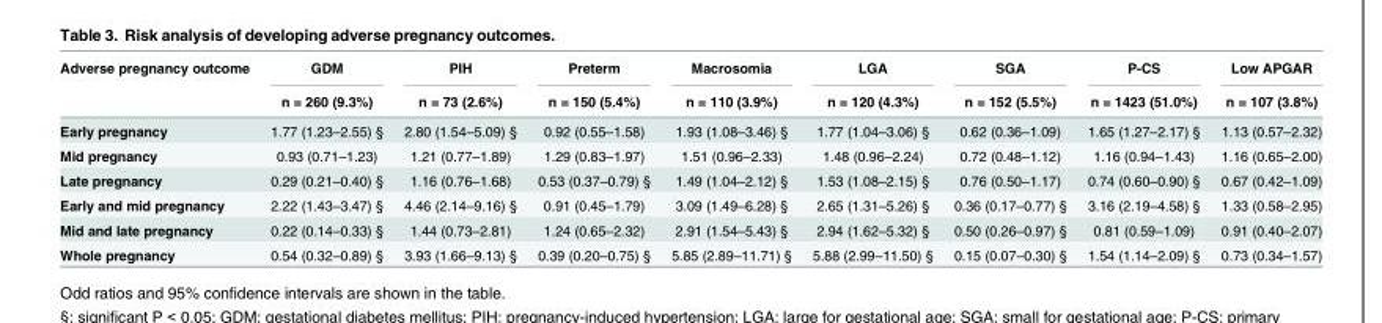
<table><thead><tr><td rowspan="2">Adverse pregnancy outcome</td><td rowspan="2">GDM n = 260 (9.3%)</td><td rowspan="2">PIH n = 73 (2.6%)</td><td rowspan="2">Preterm n = 150 (5.4%)</td><td rowspan="2">Macrosomia n = 110 (3.9%)</td><td rowspan="2">LGA n = 120 (4.3%)</td><td rowspan="2">SGA n = 152 (5.5%)</td><td rowspan="2">P-CS n = 1423 (51.0%)</td><td rowspan="2">Low APGAR n = 107 (3.8%)</td></tr><tr></tr></thead><tbody><tr><td>Early pregnancy</td><td>1.77 (1.23–2.55) §</td><td>2.80 (1.54–5.09) §</td><td>0.92 (0.55–1.58)</td><td>1.93 (1.08–3.46) §</td><td>1.77 (1.04–3.06) §</td><td>0.62 (0.36–1.09)</td><td>1.65 (1.27–2.17) §</td><td>1.13 (0.57–2.32)</td></tr><tr><td>Mid pregnancy</td><td>0.93 (0.71–1.23)</td><td>1.21 (0.77–1.89)</td><td>1.29 (0.83–1.97)</td><td>1.51 (0.96–2.33)</td><td>1.48 (0.96–2.24)</td><td>0.72 (0.48–1.12)</td><td>1.16 (0.94–1.43)</td><td>1.16 (0.65–2.00)</td></tr><tr><td>Late pregnancy</td><td>0.29 (0.21–0.40) §</td><td>1.16 (0.76–1.68)</td><td>0.53 (0.37–0.79) §</td><td>1.49 (1.04–2.12) §</td><td>1.53 (1.08–2.15) §</td><td>0.76 (0.50–1.17)</td><td>0.74 (0.60–0.90) §</td><td>0.67 (0.42–1.09)</td></tr><tr><td>Early and mid pregnancy</td><td>2.22 (1.43–3.47) §</td><td>4.46 (2.14–9.16) §</td><td>0.91 (0.45–1.79)</td><td>3.09 (1.49–6.28) §</td><td>2.65 (1.31–5.26) §</td><td>0.36 (0.17–0.77) §</td><td>3.16 (2.19–4.58) §</td><td>1.33 (0.58–2.95)</td></tr><tr><td>Mid and late pregnancy</td><td>0.22 (0.14–0.33) §</td><td>1.44 (0.73–2.81)</td><td>1.24 (0.65–2.32)</td><td>2.91 (1.54–5.43) §</td><td>2.94 (1.62–5.32) §</td><td>0.50 (0.26–0.97) §</td><td>0.81 (0.59–1.09)</td><td>0.91 (0.40–2.07)</td></tr><tr><td>Whole pregnancy</td><td>0.54 (0.32–0.89) §</td><td>3.93 (1.66–9.13) §</td><td>0.39 (0.20–0.75) §</td><td>5.85 (2.89–11.71) §</td><td>5.88 (2.99–11.50) §</td><td>0.15 (0.07–0.30) §</td><td>1.54 (1.14–2.09) §</td><td>0.73 (0.34–1.57)</td></tr></tbody></table>